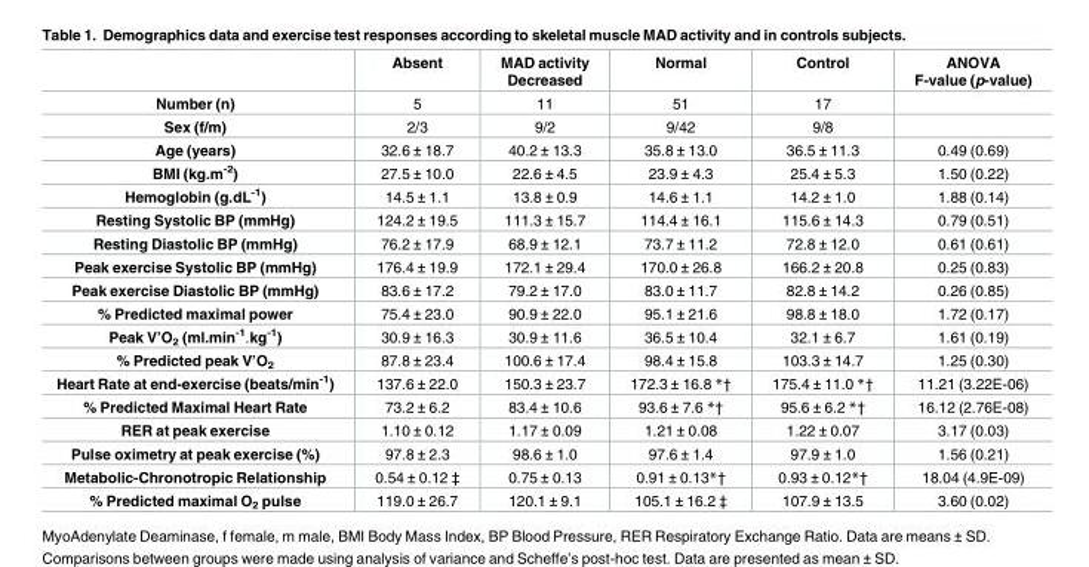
<table><thead><tr><td></td><td>Absent</td><td>MAD activity Decreased</td><td>Normal</td><td>Control</td><td>ANOVA F-value (p-value)</td></tr></thead><tbody><tr><td>Number (n)</td><td>5</td><td>11</td><td>51</td><td>17</td><td></td></tr><tr><td>Sex (f/m)</td><td>2/3</td><td>9/2</td><td>9/42</td><td>9/8</td><td></td></tr><tr><td>Age (years)</td><td>32.6 ± 18.7</td><td>40.2 ± 13.3</td><td>35.8 ± 13.0</td><td>36.5 ± 11.3</td><td>0.49 (0.69)</td></tr><tr><td>BMI (kg.m<sup>-2</sup>)</td><td>27.5 ± 10.0</td><td>22.6 ± 4.5</td><td>23.9 ± 4.3</td><td>25.4 ± 5.3</td><td>1.50 (0.22)</td></tr><tr><td>Hemoglobin (g.dL<sup>-1</sup>)</td><td>14.5 ± 1.1</td><td>13.8 ± 0.9</td><td>14.6 ± 1.1</td><td>14.2 ± 1.0</td><td>1.88 (0.14)</td></tr><tr><td>Resting Systolic BP (mmHg)</td><td>124.2 ± 19.5</td><td>111.3 ± 15.7</td><td>114.4 ± 16.1</td><td>115.6 ± 14.3</td><td>0.79 (0.51)</td></tr><tr><td>Resting Diastolic BP (mmHg)</td><td>76.2 ± 17.9</td><td>68.9 ± 12.1</td><td>73.7 ± 11.2</td><td>72.8 ± 12.0</td><td>0.61 (0.61)</td></tr><tr><td>Peak exercise Systolic BP (mmHg)</td><td>176.4 ± 19.9</td><td>172.1 ± 29.4</td><td>170.0 ± 26.8</td><td>166.2 ± 20.8</td><td>0.25 (0.83)</td></tr><tr><td>Peak exercise Diastolic BP (mmHg)</td><td>83.6 ± 17.2</td><td>79.2 ± 17.0</td><td>83.0 ± 11.7</td><td>82.8 ± 14.2</td><td>0.26 (0.85)</td></tr><tr><td>% Predicted maximal power</td><td>75.4 ± 23.0</td><td>90.9 ± 22.0</td><td>95.1 ± 21.6</td><td>98.8 ± 18.0</td><td>1.72 (0.17)</td></tr><tr><td>Peak V’O<sub>2</sub> (ml.min<sup>-1</sup>.kg<sup>-1</sup>)</td><td>30.9 ± 16.3</td><td>30.9 ± 11.6</td><td>36.5 ± 10.4</td><td>32.1 ± 6.7</td><td>1.61 (0.19)</td></tr><tr><td>% Predicted peak V’O<sub>2</sub></td><td>87.8 ± 23.4</td><td>100.6 ± 17.4</td><td>98.4 ± 15.8</td><td>103.3 ± 14.7</td><td>1.25 (0.30)</td></tr><tr><td>Heart Rate at end-exercise (beats/min<sup>-1</sup>)</td><td>137.6 ± 22.0</td><td>150.3 ± 23.7</td><td>172.3 ± 16.8 *†</td><td>175.4 ± 11.0 *†</td><td>11.21 (3.22E-06)</td></tr><tr><td>% Predicted Maximal Heart Rate</td><td>73.2 ± 6.2</td><td>83.4 ± 10.6</td><td>93.6 ± 7.6 *†</td><td>95.6 ± 6.2 *†</td><td>16.12 (2.76E-08)</td></tr><tr><td>RER at peak exercise</td><td>1.10 ± 0.12</td><td>1.17 ± 0.09</td><td>1.21 ± 0.08</td><td>1.22 ± 0.07</td><td>3.17 (0.03)</td></tr><tr><td>Pulse oximetry at peak exercise (%)</td><td>97.8 ± 2.3</td><td>98.6 ± 1.0</td><td>97.6 ± 1.4</td><td>97.9 ± 1.0</td><td>1.56 (0.21)</td></tr><tr><td>Metabolic-Chronotropic Relationship</td><td>0.54 ± 0.12 ‡</td><td>0.75 ± 0.13</td><td>0.91 ± 0.13*†</td><td>0.93 ± 0.12*†</td><td>18.04 (4.9E-09)</td></tr><tr><td>% Predicted maximal O<sub>2</sub> pulse</td><td>119.0 ± 26.7</td><td>120.1 ± 9.1</td><td>105.1 ± 16.2 ‡</td><td>107.9 ± 13.5</td><td>3.60 (0.02)</td></tr></tbody></table>